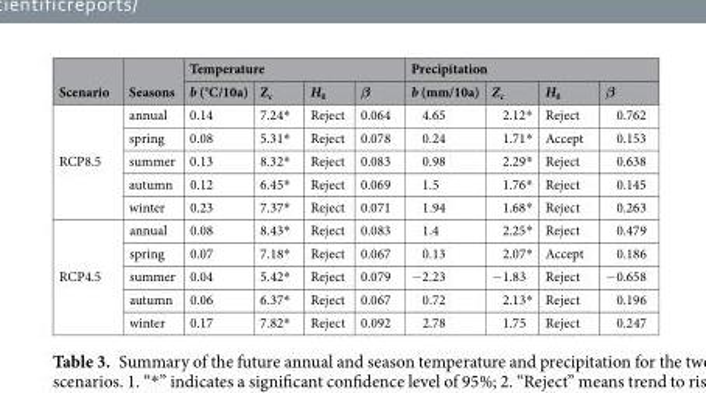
<table><thead><tr><td rowspan="2">Scenario</td><td rowspan="2">Seasons</td><td colspan="4">Temperature</td><td colspan="4">Precipitation</td></tr><tr><td>b (°C/10a)</td><td>Z<sub>c</sub></td><td>H<sub>0</sub></td><td>β</td><td>b (mm/10a)</td><td>Z<sub>c</sub></td><td>H<sub>0</sub></td><td>β</td></tr></thead><tbody><tr><td rowspan="5">RCP8.5</td><td>annual</td><td>0.14</td><td>7.24*</td><td>Reject</td><td>0.064</td><td>4.65</td><td>2.12*</td><td>Reject</td><td>0.762</td></tr><tr><td>spring</td><td>0.08</td><td>5.31*</td><td>Reject</td><td>0.078</td><td>0.24</td><td>1.71*</td><td>Accept</td><td>0.153</td></tr><tr><td>summer</td><td>0.13</td><td>8.32*</td><td>Reject</td><td>0.083</td><td>0.98</td><td>2.29*</td><td>Reject</td><td>0.638</td></tr><tr><td>autumn</td><td>0.12</td><td>6.45*</td><td>Reject</td><td>0.069</td><td>1.5</td><td>1.76*</td><td>Reject</td><td>0.145</td></tr><tr><td>winter</td><td>0.23</td><td>7.37*</td><td>Reject</td><td>0.071</td><td>1.94</td><td>1.68*</td><td>Reject</td><td>0.263</td></tr><tr><td rowspan="5">RCP4.5</td><td>annual</td><td>0.08</td><td>8.43*</td><td>Reject</td><td>0.083</td><td>1.4</td><td>2.25*</td><td>Reject</td><td>0.479</td></tr><tr><td>spring</td><td>0.07</td><td>7.18*</td><td>Reject</td><td>0.067</td><td>0.13</td><td>2.07*</td><td>Accept</td><td>0.186</td></tr><tr><td>summer</td><td>0.04</td><td>5.42*</td><td>Reject</td><td>0.079</td><td>−2.23</td><td>−1.83</td><td>Reject</td><td>−0.658</td></tr><tr><td>autumn</td><td>0.06</td><td>6.37*</td><td>Reject</td><td>0.067</td><td>0.72</td><td>2.13*</td><td>Reject</td><td>0.196</td></tr><tr><td>winter</td><td>0.17</td><td>7.82*</td><td>Reject</td><td>0.092</td><td>2.78</td><td>1.75</td><td>Reject</td><td>0.247</td></tr></tbody></table>